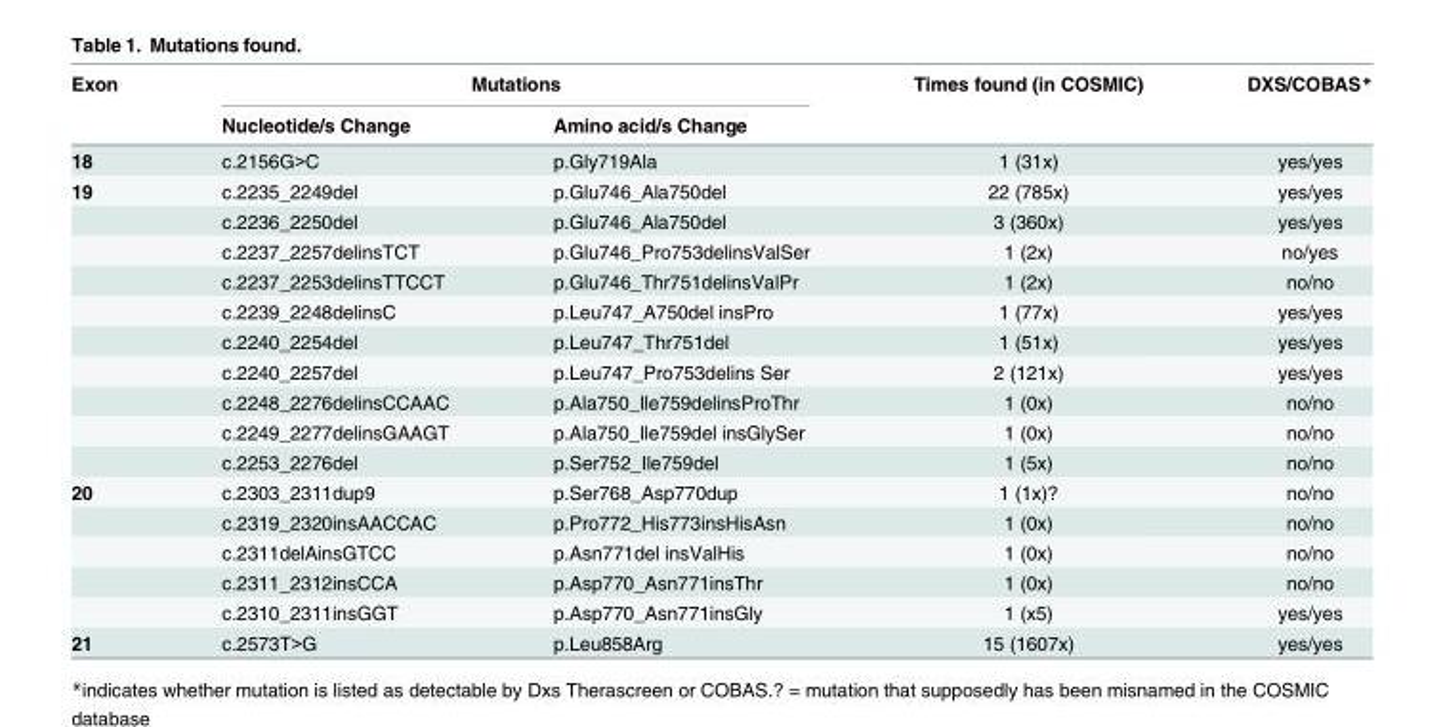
<table><thead><tr><td rowspan="2">Exon</td><td colspan="2">Mutations</td><td rowspan="2">Times found (in COSMIC)</td><td rowspan="2">DXS/COBAS*</td></tr><tr><td>Nucleotide/s Change</td><td>Amino acid/s Change</td></tr></thead><tbody><tr><td>18</td><td>c.2156G&gt;C</td><td>p.Gly719Ala</td><td>1 (31x)</td><td>yes/yes</td></tr><tr><td rowspan="10">19</td><td>c.2235_2249del</td><td>p.Glu746_Ala750del</td><td>22 (785x)</td><td>yes/yes</td></tr><tr><td>c.2236_2250del</td><td>p.Glu746_Ala750del</td><td>3 (360x)</td><td>yes/yes</td></tr><tr><td>c.2237_2257delinsTCT</td><td>p.Glu746_Pro753delinsValSer</td><td>1 (2x)</td><td>no/yes</td></tr><tr><td>c.2237_2253delinsTTCCT</td><td>p.Glu746_Thr751delinsValPr</td><td>1 (2x)</td><td>no/no</td></tr><tr><td>c.2239_2248delinsC</td><td>p.Leu747_A750del insPro</td><td>1 (77x)</td><td>yes/yes</td></tr><tr><td>c.2240_2254del</td><td>p.Leu747_Thr751del</td><td>1 (51x)</td><td>yes/yes</td></tr><tr><td>c.2240_2257del</td><td>p.Leu747_Pro753delins Ser</td><td>2 (121x)</td><td>yes/yes</td></tr><tr><td>c.2248_2276delinsCCAAC</td><td>p.Ala750_Ile759delinsProThr</td><td>1 (0x)</td><td>no/no</td></tr><tr><td>c.2249_2277delinsGAAGT</td><td>p.Ala750_Ile759del insGlySer</td><td>1 (0x)</td><td>no/no</td></tr><tr><td>c.2253_2276del</td><td>p.Ser752_Ile759del</td><td>1 (5x)</td><td>no/no</td></tr><tr><td rowspan="5">20</td><td>c.2303_2311dup9</td><td>p.Ser768_Asp770dup</td><td>1 (1x)?</td><td>no/no</td></tr><tr><td>c.2319_2320insAACCAC</td><td>p.Pro772_His773insHisAsn</td><td>1 (0x)</td><td>no/no</td></tr><tr><td>c.2311delAinsGTCC</td><td>p.Asn771del insValHis</td><td>1 (0x)</td><td>no/no</td></tr><tr><td>c.2311_2312insCCA</td><td>p.Asp770_Asn771insThr</td><td>1 (0x)</td><td>no/no</td></tr><tr><td>c.2310_2311insGGT</td><td>p.Asp770_Asn771insGly</td><td>1 (x5)</td><td>yes/yes</td></tr><tr><td>21</td><td>c.2573T&gt;G</td><td>p.Leu858Arg</td><td>15 (1607x)</td><td>yes/yes</td></tr></tbody></table>